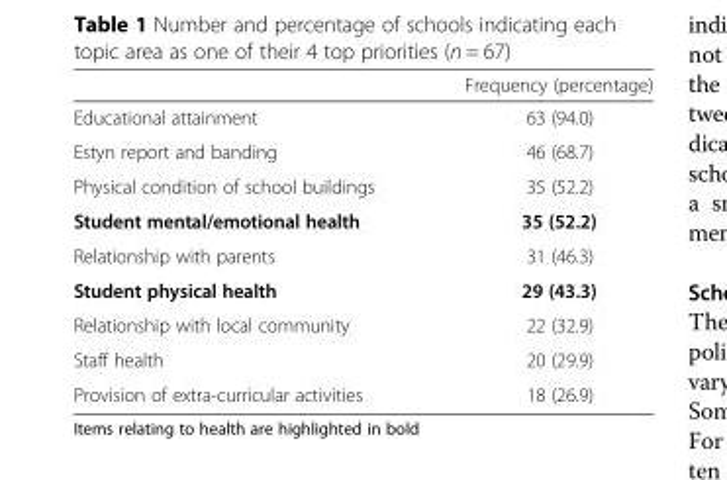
<table><thead><tr><td></td><td>Frequency (percentage)</td></tr></thead><tbody><tr><td>Educational attainment</td><td>63 (94.0)</td></tr><tr><td>Estyn report and banding</td><td>46 (68.7)</td></tr><tr><td>Physical condition of school buildings</td><td>35 (52.2)</td></tr><tr><td>Student mental/emotional health</td><td>35 (52.2)</td></tr><tr><td>Relationship with parents</td><td>31 (46.3)</td></tr><tr><td>Student physical health</td><td>29 (43.3)</td></tr><tr><td>Relationship with local community</td><td>22 (32.9)</td></tr><tr><td>Staff health</td><td>20 (29.9)</td></tr><tr><td>Provision of extra-curricular activities</td><td>18 (26.9)</td></tr></tbody></table>